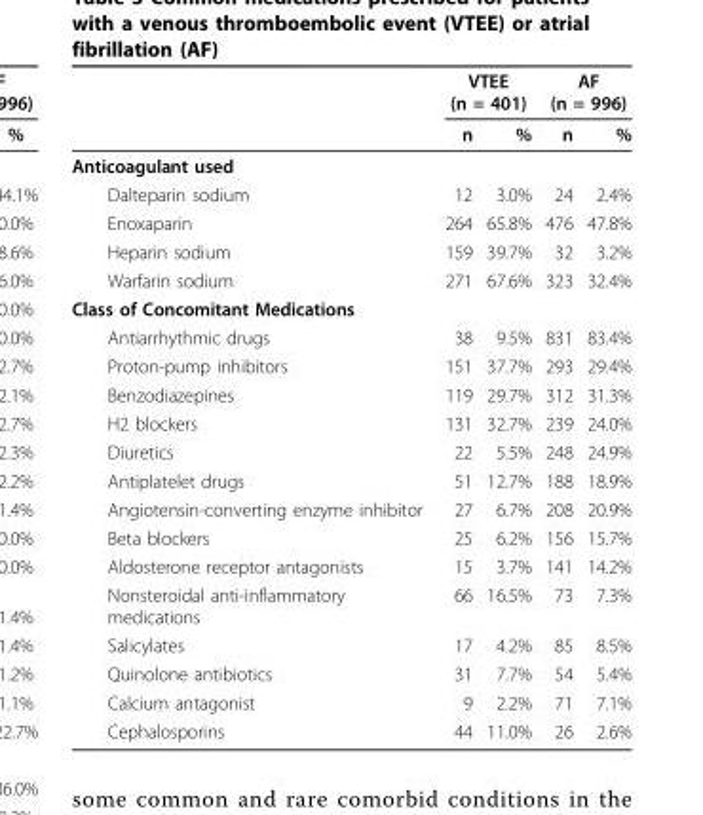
<table><thead><tr><td rowspan="2"></td><td colspan="2">VTEE (n = 401)</td><td colspan="2">AF (n = 996)</td></tr><tr><td>n</td><td>%</td><td>n</td><td>%</td></tr></thead><tbody><tr><td colspan="5">Anticoagulant used</td></tr><tr><td>Dalteparin sodium</td><td>12</td><td>3.0%</td><td>24</td><td>2.4%</td></tr><tr><td>Enoxaparin</td><td>264</td><td>65.8%</td><td>476</td><td>47.8%</td></tr><tr><td>Heparin sodium</td><td>159</td><td>39.7%</td><td>32</td><td>3.2%</td></tr><tr><td>Warfarin sodium</td><td>271</td><td>67.6%</td><td>323</td><td>32.4%</td></tr><tr><td colspan="5">Class of Concomitant Medications</td></tr><tr><td>Antiarrhythmic drugs</td><td>38</td><td>9.5%</td><td>831</td><td>83.4%</td></tr><tr><td>Proton-pump inhibitors</td><td>151</td><td>37.7%</td><td>293</td><td>29.4%</td></tr><tr><td>Benzodiazepines</td><td>119</td><td>29.7%</td><td>312</td><td>31.3%</td></tr><tr><td>H2 blockers</td><td>131</td><td>32.7%</td><td>239</td><td>24.0%</td></tr><tr><td>Diuretics</td><td>22</td><td>5.5%</td><td>248</td><td>24.9%</td></tr><tr><td>Antiplatelet drugs</td><td>51</td><td>12.7%</td><td>188</td><td>18.9%</td></tr><tr><td>Angiotensin-converting enzyme inhibitor</td><td>27</td><td>6.7%</td><td>208</td><td>20.9%</td></tr><tr><td>Beta blockers</td><td>25</td><td>6.2%</td><td>156</td><td>15.7%</td></tr><tr><td>Aldosterone receptor antagonists</td><td>15</td><td>3.7%</td><td>141</td><td>14.2%</td></tr><tr><td>Nonsteroidal anti-inflammatory medications</td><td>66</td><td>16.5%</td><td>73</td><td>7.3%</td></tr><tr><td>Salicylates</td><td>17</td><td>4.2%</td><td>85</td><td>8.5%</td></tr><tr><td>Quinolone antibiotics</td><td>31</td><td>7.7%</td><td>54</td><td>5.4%</td></tr><tr><td>Calcium antagonist</td><td>9</td><td>2.2%</td><td>71</td><td>7.1%</td></tr><tr><td>Cephalosporins</td><td>44</td><td>11.0%</td><td>26</td><td>2.6%</td></tr></tbody></table>